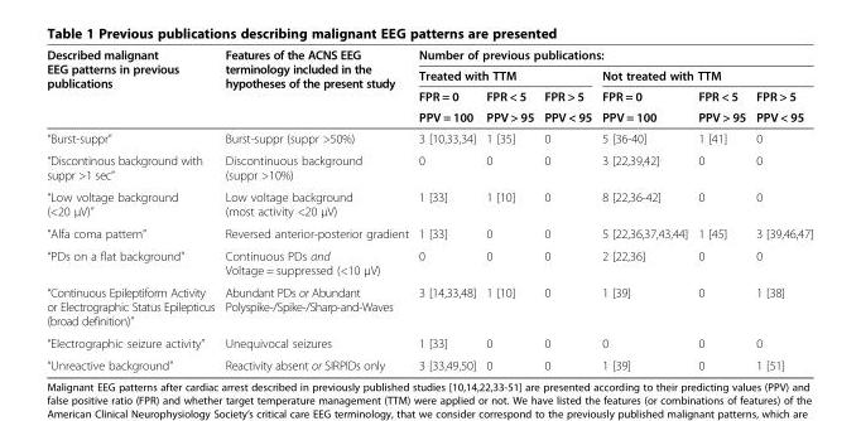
<table><thead><tr><td rowspan="4">Described malignant EEG patterns in previous publications</td><td rowspan="4">Features of the ACNS EEG terminology included in the hypotheses of the present study</td><td colspan="6">Number of previous publications:</td></tr><tr><td colspan="3">Treated with TTM</td><td colspan="3">Not treated with TTM</td></tr><tr><td rowspan="2">FPR = 0 PPV = 100</td><td rowspan="2">FPR &lt; 5 PPV &gt; 95</td><td rowspan="2">FPR &gt; 5 PPV &lt; 95</td><td rowspan="2">FPR = 0 PPV = 100</td><td rowspan="2">FPR &lt; 5 PPV &gt; 95</td><td rowspan="2">FPR &gt; 5 PPV &lt; 95</td></tr><tr></tr></thead><tbody><tr><td>“Burst-suppr”</td><td>Burst-suppr (suppr &gt;50%)</td><td>3 [10,33,34]</td><td>1 [35]</td><td>0</td><td>5 [36-40]</td><td>1 [41]</td><td>0</td></tr><tr><td>“Discontinous background with suppr &gt;1 sec”</td><td>Discontinuous background (suppr &gt;10%)</td><td>0</td><td>0</td><td>0</td><td>3 [22,39,42]</td><td>0</td><td>0</td></tr><tr><td>“Low voltage background (&lt;20 μV)”</td><td>Low voltage background (most activity &lt;20 μV)</td><td>1 [33]</td><td>1 [10]</td><td>0</td><td>8 [22,36-42]</td><td>0</td><td>0</td></tr><tr><td>“Alfa coma pattern”</td><td>Reversed anterior-posterior gradient</td><td>1 [33]</td><td>0</td><td>0</td><td>5 [22,36,37,43,44]</td><td>1 [45]</td><td>3 [39,46,47]</td></tr><tr><td>“PDs on a flat background”</td><td>Continuous PDs and Voltage = suppressed (&lt;10 μV)</td><td>0</td><td>0</td><td>0</td><td>2 [22,36]</td><td>0</td><td>0</td></tr><tr><td>“Continuous Epileptiform Activity or Electrographic Status Epilepticus (broad definition)”</td><td>Abundant PDs or Abundant Polyspike-/Spike-/Sharp-and-Waves</td><td>3 [14,33,48]</td><td>1 [10]</td><td>0</td><td>1 [39]</td><td>0</td><td>1 [38]</td></tr><tr><td>“Electrographic seizure activity”</td><td>Unequivocal seizures</td><td>1 [33]</td><td>0</td><td>0</td><td>0</td><td>0</td><td>0</td></tr><tr><td>“Unreactive background”</td><td>Reactivity absent or SIRPIDs only</td><td>3 [33,49,50]</td><td>0</td><td>0</td><td>1 [39]</td><td>0</td><td>1 [51]</td></tr></tbody></table>